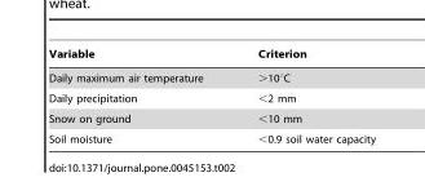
<table><thead><tr><td>Variable</td><td>Criterion</td></tr></thead><tbody><tr><td>Daily maximum air temperature</td><td>&gt;10°C</td></tr><tr><td>Daily precipitation</td><td>&lt;2 mm</td></tr><tr><td>Snow on ground</td><td>&lt;10 mm</td></tr><tr><td>Soil moisture</td><td>&lt;0.9 soil water capacity</td></tr></tbody></table>